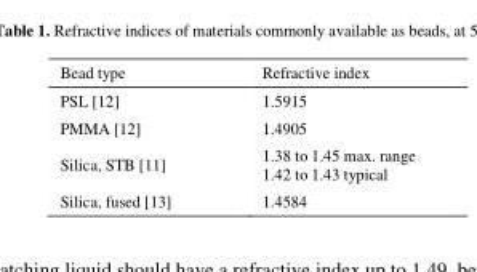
<table><thead><tr><td>Bead type</td><td>Refractive index</td></tr></thead><tbody><tr><td>PSL [12]</td><td>1.5915</td></tr><tr><td>PMMA [12]</td><td>1.4905</td></tr><tr><td>Silica, STB [11]</td><td>1.38 to 1.45 max. range 1.42 to 1.43 typical</td></tr><tr><td>Silica, fused [13]</td><td>1.4584</td></tr></tbody></table>